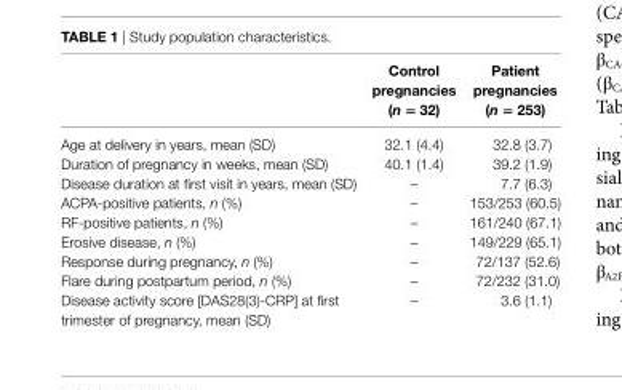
<table><thead><tr><td></td><td>control pregnancies (n = 32)</td><td>Patient pregnancies (n = 253)</td></tr></thead><tbody><tr><td>Age at delivery in years, mean (SD)</td><td>32.1 (4.4)</td><td>32.8 (3.7)</td></tr><tr><td>Duration of pregnancy in weeks, mean (SD)</td><td>40.1 (1.4)</td><td>39.2 (1.9)</td></tr><tr><td>Disease duration at first visit in years, mean (SD)</td><td>–</td><td>7.7 (6.3)</td></tr><tr><td>ACPA-positive patients, n (%)</td><td>–</td><td>153/253 (60.5)</td></tr><tr><td>RF-positive patients, n (%)</td><td>–</td><td>161/240 (67.1)</td></tr><tr><td>Erosive disease, n (%)</td><td>–</td><td>149/229 (65.1)</td></tr><tr><td>Response during pregnancy, n (%)</td><td>–</td><td>72/137 (52.6)</td></tr><tr><td>Flare during postpartum period, n (%)</td><td>–</td><td>72/232 (31.0)</td></tr><tr><td>Disease activity score [DAS28(3)-CRP] at first trimester of pregnancy, mean (SD)</td><td>–</td><td>3.6 (1.1)</td></tr></tbody></table>